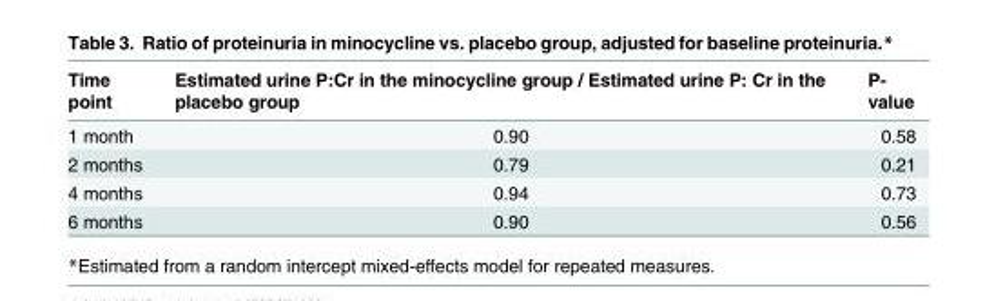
<table><thead><tr><td>Time point</td><td>Estimated urine P:Cr in the minocycline group / Estimated urine P: Cr in the placebo group</td><td>P- value</td></tr></thead><tbody><tr><td>1 month</td><td>0.90</td><td>0.58</td></tr><tr><td>2 months</td><td>0.79</td><td>0.21</td></tr><tr><td>4 months</td><td>0.94</td><td>0.73</td></tr><tr><td>6 months</td><td>0.90</td><td>0.56</td></tr></tbody></table>